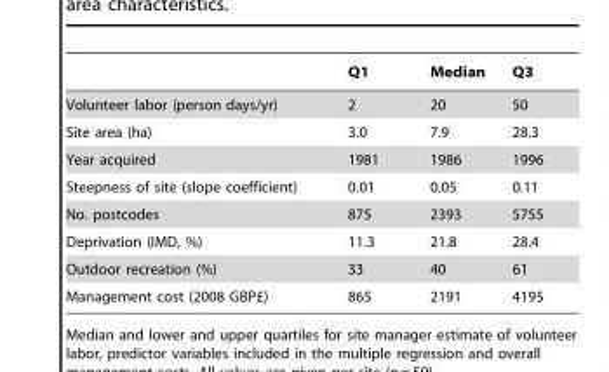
<table><thead><tr><td></td><td>Q1</td><td>Median</td><td>Q3</td></tr></thead><tbody><tr><td>Volunteer labor (person days/yr)</td><td>2</td><td>20</td><td>50</td></tr><tr><td>Site area (ha)</td><td>3.0</td><td>7.9</td><td>28.3</td></tr><tr><td>Year acquired</td><td>1981</td><td>1986</td><td>1996</td></tr><tr><td>Steepness of site (slope coefficient)</td><td>0.01</td><td>0.05</td><td>0.11</td></tr><tr><td>No. postcodes</td><td>875</td><td>2393</td><td>5755</td></tr><tr><td>Deprivation (IMD, %)</td><td>11.3</td><td>21.8</td><td>28.4</td></tr><tr><td>Outdoor recreation (%)</td><td>33</td><td>40</td><td>61</td></tr><tr><td>Management cost (2008 GBP£)</td><td>865</td><td>2191</td><td>4195</td></tr></tbody></table>